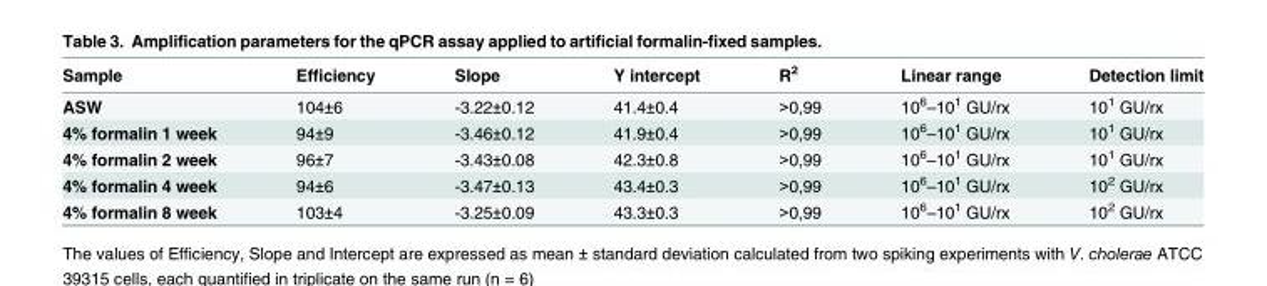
<table><thead><tr><td>Sample</td><td>Efficiency</td><td>Slope</td><td>Y intercept</td><td>R<sup>2</sup></td><td>Linear range</td><td>Detection limit</td></tr></thead><tbody><tr><td>ASW</td><td>104±6</td><td>-3.22±0.12</td><td>41.4±0.4</td><td>&gt;0,99</td><td>10<sup>6</sup>–10<sup>1</sup> GU/rx</td><td>10<sup>1</sup> GU/rx</td></tr><tr><td>4% formalin 1 week</td><td>94±9</td><td>-3.46±0.12</td><td>41.9±0.4</td><td>&gt;0,99</td><td>10<sup>6</sup>–10<sup>1</sup> GU/rx</td><td>10<sup>1</sup> GU/rx</td></tr><tr><td>4% formalin 2 week</td><td>96±7</td><td>-3.43±0.08</td><td>42.3±0.8</td><td>&gt;0,99</td><td>10<sup>6</sup>–10<sup>1</sup> GU/rx</td><td>10<sup>1</sup> GU/rx</td></tr><tr><td>4% formalin 4 week</td><td>94±6</td><td>-3.47±0.13</td><td>43.4±0.3</td><td>&gt;0,99</td><td>10<sup>6</sup>–10<sup>1</sup> GU/rx</td><td>10<sup>2</sup> GU/rx</td></tr><tr><td>4% formalin 8 week</td><td>103±4</td><td>-3.25±0.09</td><td>43.3±0.3</td><td>&gt;0,99</td><td>10<sup>6</sup>–10<sup>1</sup> GU/rx</td><td>10<sup>2</sup> GU/rx</td></tr></tbody></table>